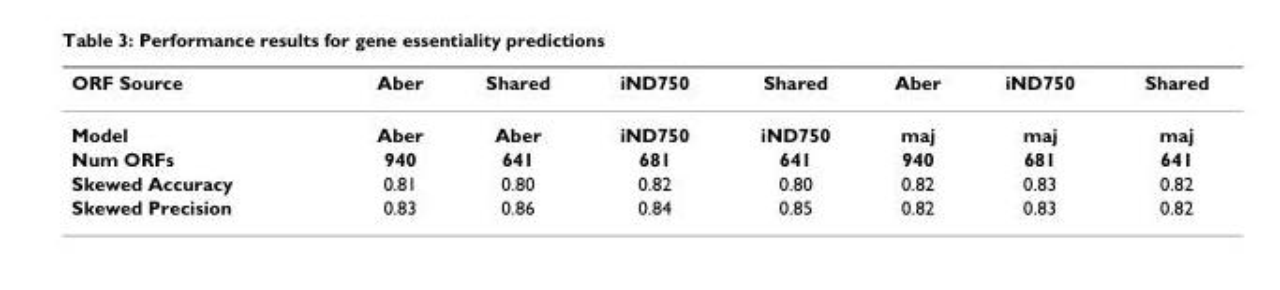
<table><thead><tr><td>ORF Source</td><td>Aber</td><td>Shared</td><td>iND750</td><td>Shared</td><td>Aber</td><td>iND750</td><td>Shared</td></tr></thead><tbody><tr><td>Model</td><td>Aber</td><td>Aber</td><td>iND750</td><td>iND750</td><td>maj</td><td>maj</td><td>maj</td></tr><tr><td>Num ORFs</td><td>940</td><td>641</td><td>681</td><td>641</td><td>940</td><td>681</td><td>641</td></tr><tr><td>Skewed Accuracy</td><td>0.81</td><td>0.80</td><td>0.82</td><td>0.80</td><td>0.82</td><td>0.83</td><td>0.82</td></tr><tr><td>Skewed Precision</td><td>0.83</td><td>0.86</td><td>0.84</td><td>0.85</td><td>0.82</td><td>0.83</td><td>0.82</td></tr></tbody></table>